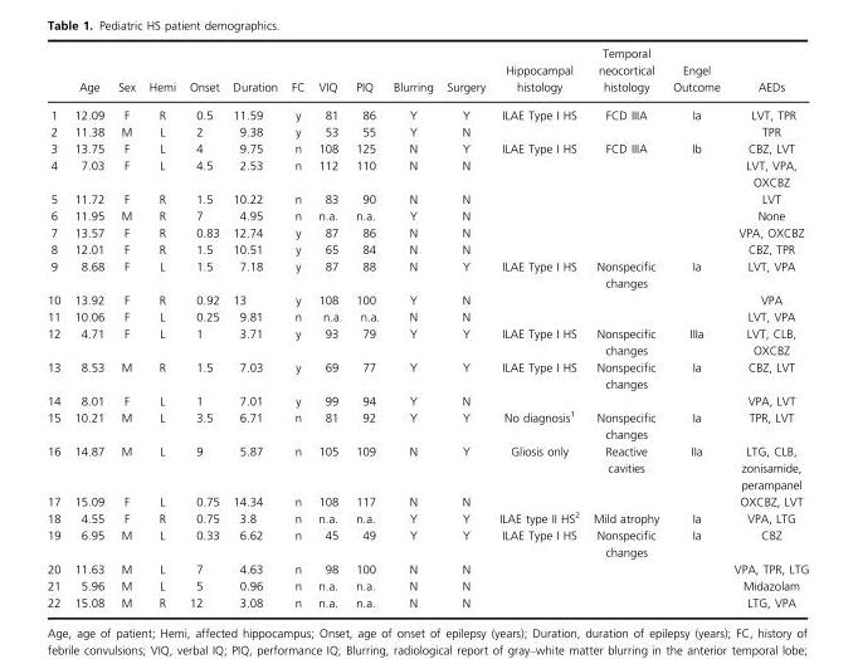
<table><thead><tr><td></td><td>Age</td><td>Sex</td><td>Hemi</td><td>Onset</td><td>Duration</td><td>FC</td><td>VIQ</td><td>PIQ</td><td>Blurring</td><td>Surgery</td><td>Hippocampal histology</td><td>Temporal neocortical histology</td><td>Engel Outcome</td><td>AEDs</td></tr></thead><tbody><tr><td>1</td><td>12.09</td><td>F</td><td>R</td><td>0.5</td><td>11.59</td><td>y</td><td>81</td><td>86</td><td>Y</td><td>Y</td><td>ILAE Type I HS</td><td>FCD IIIA</td><td>Ia</td><td>LVT, TPR</td></tr><tr><td>2</td><td>11.38</td><td>M</td><td>L</td><td>2</td><td>9.38</td><td>y</td><td>53</td><td>55</td><td>Y</td><td>N</td><td></td><td></td><td></td><td>TPR</td></tr><tr><td>3</td><td>13.75</td><td>F</td><td>L</td><td>4</td><td>9.75</td><td>n</td><td>108</td><td>125</td><td>N</td><td>Y</td><td>ILAE Type I HS</td><td>FCD IIIA</td><td>Ib</td><td>CBZ, LVT</td></tr><tr><td>4</td><td>7.03</td><td>F</td><td>L</td><td>4.5</td><td>2.53</td><td>n</td><td>112</td><td>110</td><td>N</td><td>N</td><td></td><td></td><td></td><td>LVT, VPA, OXCBZ</td></tr><tr><td>5</td><td>11.72</td><td>F</td><td>R</td><td>1.5</td><td>10.22</td><td>n</td><td>83</td><td>90</td><td>N</td><td>N</td><td></td><td></td><td></td><td>LVT</td></tr><tr><td>6</td><td>11.95</td><td>M</td><td>R</td><td>7</td><td>4.95</td><td>n</td><td>n.a.</td><td>n.a.</td><td>Y</td><td>N</td><td></td><td></td><td></td><td>None</td></tr><tr><td>7</td><td>13.57</td><td>F</td><td>R</td><td>0.83</td><td>12.74</td><td>y</td><td>87</td><td>86</td><td>N</td><td>N</td><td></td><td></td><td></td><td>VPA, OXCBZ</td></tr><tr><td>8</td><td>12.01</td><td>F</td><td>R</td><td>1.5</td><td>10.51</td><td>y</td><td>65</td><td>84</td><td>N</td><td>N</td><td></td><td></td><td></td><td>CBZ, TPR</td></tr><tr><td>9</td><td>8.68</td><td>F</td><td>L</td><td>1.5</td><td>7.18</td><td>y</td><td>87</td><td>88</td><td>N</td><td>Y</td><td>ILAE Type I HS</td><td>Nonspecific changes</td><td>Ia</td><td>LVT, VPA</td></tr><tr><td>10</td><td>13.92</td><td>F</td><td>R</td><td>0.92</td><td>13</td><td>y</td><td>108</td><td>100</td><td>Y</td><td>N</td><td></td><td></td><td></td><td>VPA</td></tr><tr><td>11</td><td>10.06</td><td>F</td><td>L</td><td>0.25</td><td>9.81</td><td>n</td><td>n.a.</td><td>n.a.</td><td>N</td><td>N</td><td></td><td></td><td></td><td>LVT, VPA</td></tr><tr><td>12</td><td>4.71</td><td>F</td><td>L</td><td>1</td><td>3.71</td><td>y</td><td>93</td><td>79</td><td>Y</td><td>Y</td><td>ILAE Type I HS</td><td>Nonspecific changes</td><td>IIIa</td><td>LVT, CLB, OXCBZ</td></tr><tr><td>13</td><td>8.53</td><td>M</td><td>R</td><td>1.5</td><td>7.03</td><td>y</td><td>69</td><td>77</td><td>Y</td><td>Y</td><td>ILAE Type I HS</td><td>Nonspecific changes</td><td>Ia</td><td>CBZ, LVT</td></tr><tr><td>14</td><td>8.01</td><td>F</td><td>L</td><td>1</td><td>7.01</td><td>y</td><td>99</td><td>94</td><td>Y</td><td>N</td><td></td><td></td><td></td><td>VPA, LVT</td></tr><tr><td>15</td><td>10.21</td><td>M</td><td>L</td><td>3.5</td><td>6.71</td><td>n</td><td>81</td><td>92</td><td>Y</td><td>Y</td><td>No diagnosis1</td><td>Nonspecific changes</td><td>Ia</td><td>TPR, LVT</td></tr><tr><td>16</td><td>14.87</td><td>M</td><td>L</td><td>9</td><td>5.87</td><td>n</td><td>105</td><td>109</td><td>N</td><td>Y</td><td>Gliosis only</td><td>Reactive cavities</td><td>IIa</td><td>LTG, CLB, zonisamide, perampanel</td></tr><tr><td>17</td><td>15.09</td><td>F</td><td>L</td><td>0.75</td><td>14.34</td><td>n</td><td>108</td><td>117</td><td>N</td><td>N</td><td></td><td></td><td></td><td>OXCBZ, LVT</td></tr><tr><td>18</td><td>4.55</td><td>F</td><td>R</td><td>0.75</td><td>3.8</td><td>n</td><td>n.a.</td><td>n.a.</td><td>Y</td><td>Y</td><td>ILAE type II HS2</td><td>Mild atrophy</td><td>Ia</td><td>VPA, LTG</td></tr><tr><td>19</td><td>6.95</td><td>M</td><td>L</td><td>0.33</td><td>6.62</td><td>n</td><td>45</td><td>49</td><td>Y</td><td>Y</td><td>ILAE Type I HS</td><td>Nonspecific changes</td><td>Ia</td><td>CBZ</td></tr><tr><td>20</td><td>11.63</td><td>M</td><td>L</td><td>7</td><td>4.63</td><td>n</td><td>98</td><td>100</td><td>N</td><td>N</td><td></td><td></td><td></td><td>VPA, TPR, LTG</td></tr><tr><td>21</td><td>5.96</td><td>M</td><td>L</td><td>5</td><td>0.96</td><td>n</td><td>n.a.</td><td>n.a.</td><td>N</td><td>N</td><td></td><td></td><td></td><td>Midazolam</td></tr><tr><td>22</td><td>15.08</td><td>M</td><td>R</td><td>12</td><td>3.08</td><td>n</td><td>n.a.</td><td>n.a.</td><td>N</td><td>N</td><td></td><td></td><td></td><td>LTG, VPA</td></tr></tbody></table>